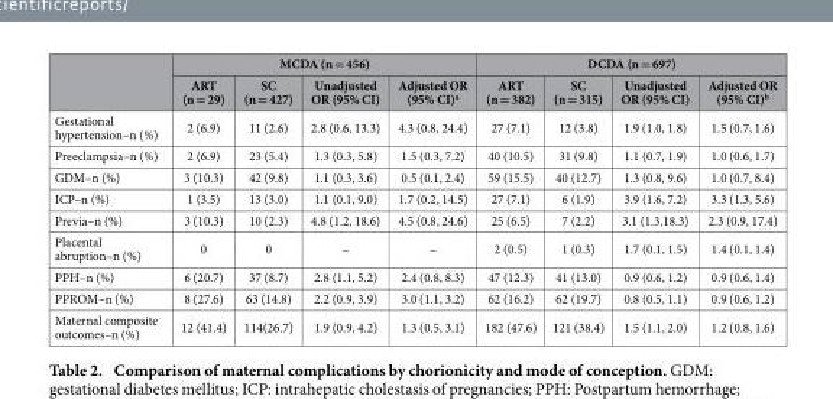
<table><thead><tr><td rowspan="2"></td><td colspan="4">MCDA (n = 456)</td><td colspan="4">DCDA (n = 697)</td></tr><tr><td>ART (n = 29)</td><td>SC (n = 427)</td><td>Unadjusted OR (95% CI)</td><td>Adjusted OR (95% CI)<sup>a</sup></td><td>ART (n = 382)</td><td>SC (n = 315)</td><td>Unadjusted OR (95% CI)</td><td>Adjusted OR (95% CI)<sup>b</sup></td></tr></thead><tbody><tr><td>Gestational hypertension–n (%)</td><td>2 (6.9)</td><td>11 (2.6)</td><td>2.8 (0.6, 13.3)</td><td>4.3 (0.8, 24.4)</td><td>27 (7.1)</td><td>12 (3.8)</td><td>1.9 (1.0, 1.8)</td><td>1.5 (0.7, 1.6)</td></tr><tr><td>Preeclampsia–n (%)</td><td>2 (6.9)</td><td>23 (5.4)</td><td>1.3 (0.3, 5.8)</td><td>1.5 (0.3, 7.2)</td><td>40 (10.5)</td><td>31 (9.8)</td><td>1.1 (0.7, 1.9)</td><td>1.0 (0.6, 1.7)</td></tr><tr><td>GDM–n (%)</td><td>3 (10.3)</td><td>42 (9.8)</td><td>1.1 (0.3, 3.6)</td><td>0.5 (0.1, 2.4)</td><td>59 (15.5)</td><td>40 (12.7)</td><td>1.3 (0.8, 9.6)</td><td>1.0 (0.7, 8.4)</td></tr><tr><td>ICP–n (%)</td><td>1 (3.5)</td><td>13 (3.0)</td><td>1.1 (0.1, 9.0)</td><td>1.7 (0.2, 14.5)</td><td>27 (7.1)</td><td>6 (1.9)</td><td>3.9 (1.6, 7.2)</td><td>3.3 (1.3, 5.6)</td></tr><tr><td>Previa–n (%)</td><td>3 (10.3)</td><td>10 (2.3)</td><td>4.8 (1.2, 18.6)</td><td>4.5 (0.8, 24.6)</td><td>25 (6.5)</td><td>7 (2.2)</td><td>3.1 (1.3,18.3)</td><td>2.3 (0.9, 17.4)</td></tr><tr><td>Placental abruption–n (%)</td><td>0</td><td>0</td><td>–</td><td>–</td><td>2 (0.5)</td><td>1 (0.3)</td><td>1.7 (0.1, 1.5)</td><td>1.4 (0.1, 1.4)</td></tr><tr><td>PPH–n (%)</td><td>6 (20.7)</td><td>37 (8.7)</td><td>2.8 (1.1, 5.2)</td><td>2.4 (0.8, 8.3)</td><td>47 (12.3)</td><td>41 (13.0)</td><td>0.9 (0.6, 1.2)</td><td>0.9 (0.6, 1.4)</td></tr><tr><td>PPROM–n (%)</td><td>8 (27.6)</td><td>63 (14.8)</td><td>2.2 (0.9, 3.9)</td><td>3.0 (1.1, 3.2)</td><td>62 (16.2)</td><td>62 (19.7)</td><td>0.8 (0.5, 1.1)</td><td>0.9 (0.6, 1.2)</td></tr><tr><td>Maternal composite outcomes–n (%)</td><td>12 (41.4)</td><td>114(26.7)</td><td>1.9 (0.9, 4.2)</td><td>1.3 (0.5, 3.1)</td><td>182 (47.6)</td><td>121 (38.4)</td><td>1.5 (1.1, 2.0)</td><td>1.2 (0.8, 1.6)</td></tr></tbody></table>